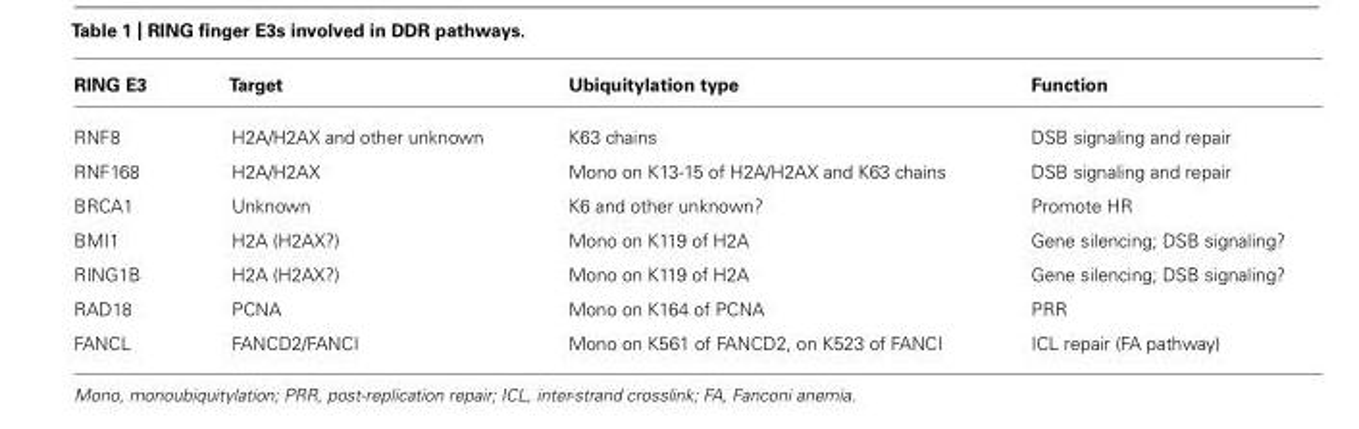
<table><thead><tr><td>RING E3</td><td>Target</td><td>Ubiquitylation type</td><td>Function</td></tr></thead><tbody><tr><td>RNF8</td><td>H2A/H2AX and other unknown</td><td>K63 chains</td><td>DSB signaling and repair</td></tr><tr><td>RNF168</td><td>H2A/H2AX</td><td>Mono on K13-15 of H2A/H2AX and K63 chains</td><td>DSB signaling and repair</td></tr><tr><td>BRCA1</td><td>Unknown</td><td>K6 and other unknown?</td><td>Promote HR</td></tr><tr><td>BMI1</td><td>H2A (H2AX?)</td><td>Mono on K119 of H2A</td><td>Gene silencing; DSB signaling?</td></tr><tr><td>RING1B</td><td>H2A (H2AX?)</td><td>Mono on K119 of H2A</td><td>Gene silencing; DSB signaling?</td></tr><tr><td>RAD18</td><td>PCNA</td><td>Mono on K164 of PCNA</td><td>PRR</td></tr><tr><td>FANCL</td><td>FANCD2/FANCI</td><td>Mono on K561 of FANCD2, on K523 of FANCI</td><td>ICL repair (FA pathway)</td></tr></tbody></table>